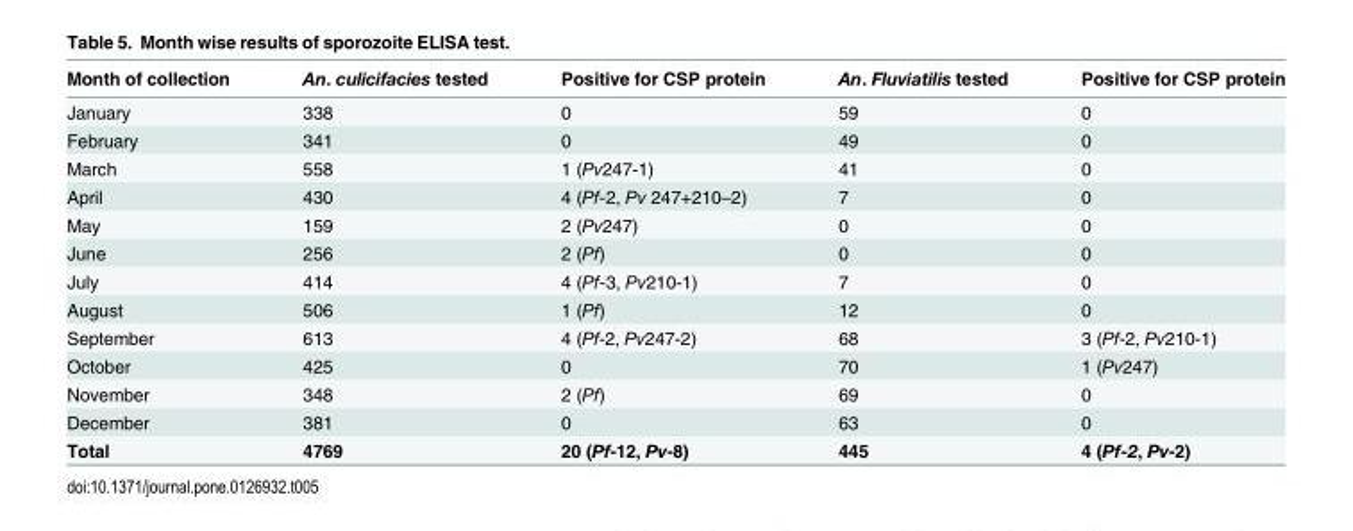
<table><thead><tr><td>Month of collection</td><td>An. culicifacies tested</td><td>Positive for CSP protein</td><td>An. Fluviatilis tested</td><td>Positive for CSP protein</td></tr></thead><tbody><tr><td>January</td><td>338</td><td>0</td><td>59</td><td>0</td></tr><tr><td>February</td><td>341</td><td>0</td><td>49</td><td>0</td></tr><tr><td>March</td><td>558</td><td>1 (Pv247-1)</td><td>41</td><td>0</td></tr><tr><td>April</td><td>430</td><td>4 (Pf-2, Pv 247+210–2)</td><td>7</td><td>0</td></tr><tr><td>May</td><td>159</td><td>2 (Pv247)</td><td>0</td><td>0</td></tr><tr><td>June</td><td>256</td><td>2 (Pf)</td><td>0</td><td>0</td></tr><tr><td>July</td><td>414</td><td>4 (Pf-3, Pv210-1)</td><td>7</td><td>0</td></tr><tr><td>August</td><td>506</td><td>1 (Pf)</td><td>12</td><td>0</td></tr><tr><td>September</td><td>613</td><td>4 (Pf-2, Pv247-2)</td><td>68</td><td>3 (Pf-2, Pv210-1)</td></tr><tr><td>October</td><td>425</td><td>0</td><td>70</td><td>1 (Pv247)</td></tr><tr><td>November</td><td>348</td><td>2 (Pf)</td><td>69</td><td>0</td></tr><tr><td>December</td><td>381</td><td>0</td><td>63</td><td>0</td></tr><tr><td>Total</td><td>4769</td><td>20 (Pf-12, Pv-8)</td><td>445</td><td>4 (Pf-2, Pv-2)</td></tr></tbody></table>